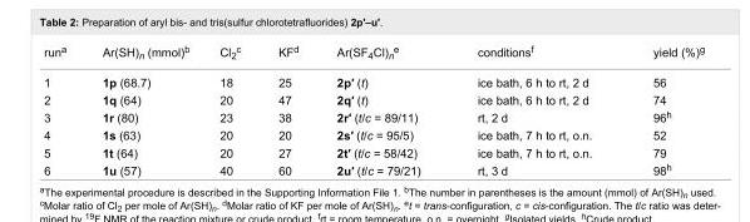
<table><tbody><tr><td>run<sup>a</sup></td><td>Ar(SH)<sub>n</sub> (mmol)<sup>b</sup></td><td>Cl<sub>2</sub><sup>c</sup></td><td>KF<sup>d</sup></td><td>Ar(SF<sub>4</sub>Cl)<sub>n</sub><sup>e</sup></td><td>conditions<sup>f</sup></td><td>yield (%)<sup>g</sup></td></tr><tr><td>1</td><td>1p (68.7)</td><td>18</td><td>25</td><td>2p′ (t)</td><td>ice bath, 6 h to rt, 2 d</td><td>56</td></tr><tr><td>2</td><td>1q (64)</td><td>20</td><td>47</td><td>2q′ (t)</td><td>ice bath, 6 h to rt, 2 d</td><td>74</td></tr><tr><td>3</td><td>1r (80)</td><td>23</td><td>38</td><td>2r′ (t/c = 89/11)</td><td>rt, 2 d</td><td>96<sup>h</sup></td></tr><tr><td>4</td><td>1s (63)</td><td>20</td><td>20</td><td>2s′ (t/c = 95/5)</td><td>ice bath, 7 h to rt, o.n.</td><td>52</td></tr><tr><td>5</td><td>1t (64)</td><td>20</td><td>27</td><td>2t′ (t/c = 58/42)</td><td>ice bath, 7 h to rt, o.n.</td><td>79</td></tr><tr><td>6</td><td>1u (57)</td><td>40</td><td>60</td><td>2u′ (t/c = 79/21)</td><td>rt, 3 d</td><td>98<sup>h</sup></td></tr></tbody></table>